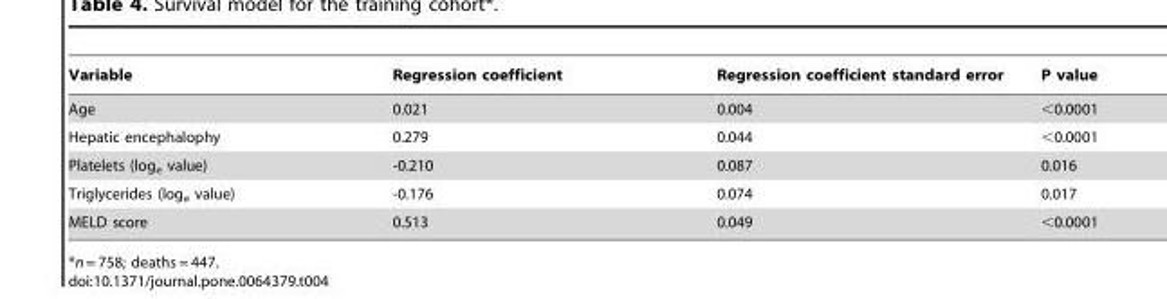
<table><thead><tr><td>Variable</td><td>Regression coefficient</td><td>Regression coefficient standard error</td><td>P value</td></tr></thead><tbody><tr><td>Age</td><td>0.021</td><td>0.004</td><td>&lt;0.0001</td></tr><tr><td>Hepatic encephalophy</td><td>0.279</td><td>0.044</td><td>&lt;0.0001</td></tr><tr><td>Platelets (log<sub>e</sub> value)</td><td>-0.210</td><td>0.087</td><td>0.016</td></tr><tr><td>Triglycerides (log<sub>e</sub> value)</td><td>-0.176</td><td>0.074</td><td>0.017</td></tr><tr><td>MELD score</td><td>0.513</td><td>0.049</td><td>&lt;0.0001</td></tr></tbody></table>